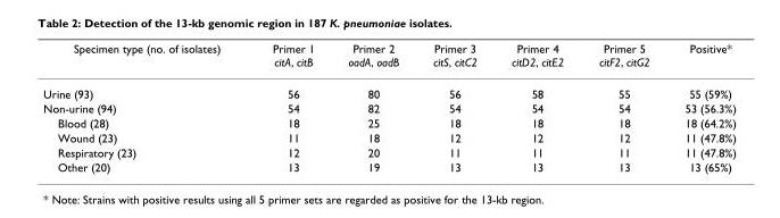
<table><thead><tr><td>Specimen type (no. of isolates)</td><td>Primer 1 citA, citB</td><td>Primer 2 oadA, oadB</td><td>Primer 3 citS, citC2</td><td>Primer 4 citD2, citE2</td><td>Primer 5 citF2, citG2</td><td>Positive*</td></tr></thead><tbody><tr><td>Urine (93)</td><td>56</td><td>80</td><td>56</td><td>58</td><td>55</td><td>55 (59%)</td></tr><tr><td>Non-urine (94)</td><td>54</td><td>82</td><td>54</td><td>54</td><td>54</td><td>53 (56.3%)</td></tr><tr><td>Blood (28)</td><td>18</td><td>25</td><td>18</td><td>18</td><td>18</td><td>18 (64.2%)</td></tr><tr><td>Wound (23)</td><td>11</td><td>18</td><td>12</td><td>12</td><td>12</td><td>11 (47.8%)</td></tr><tr><td>Respiratory (23)</td><td>12</td><td>20</td><td>11</td><td>11</td><td>11</td><td>11 (47.8%)</td></tr><tr><td>Other (20)</td><td>13</td><td>19</td><td>13</td><td>13</td><td>13</td><td>13 (65%)</td></tr></tbody></table>